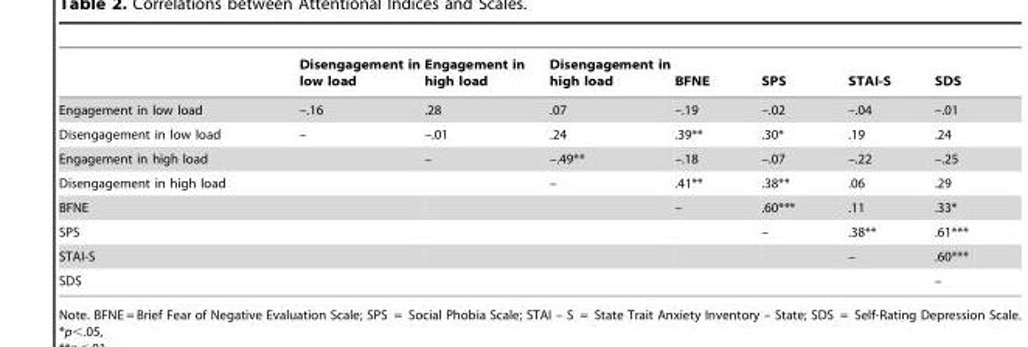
<table><thead><tr><td></td><td>Disengagement in low load</td><td>Engagement in high load</td><td>Disengagement in high load</td><td>BFNE</td><td>SPS</td><td>STAI-S</td><td>SDS</td></tr></thead><tbody><tr><td>Engagement in low load</td><td>–.16</td><td>.28</td><td>.07</td><td>–.19</td><td>–.02</td><td>–.04</td><td>–.01</td></tr><tr><td>Disengagement in low load</td><td>–</td><td>–.01</td><td>.24</td><td>.39**</td><td>.30*</td><td>.19</td><td>.24</td></tr><tr><td>Engagement in high load</td><td></td><td>–</td><td>–.49**</td><td>–.18</td><td>–.07</td><td>–.22</td><td>–.25</td></tr><tr><td>Disengagement in high load</td><td></td><td></td><td>–</td><td>.41**</td><td>.38**</td><td>.06</td><td>.29</td></tr><tr><td>BFNE</td><td></td><td></td><td></td><td>–</td><td>.60***</td><td>.11</td><td>.33*</td></tr><tr><td>SPS</td><td></td><td></td><td></td><td></td><td>–</td><td>.38**</td><td>.61***</td></tr><tr><td>STAI-S</td><td></td><td></td><td></td><td></td><td></td><td>–</td><td>.60***</td></tr><tr><td>SDS</td><td></td><td></td><td></td><td></td><td></td><td></td><td>–</td></tr></tbody></table>